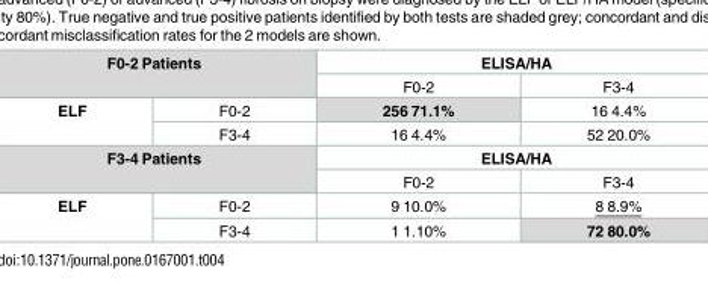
<table><tbody><tr><td rowspan="2" colspan="2">F0-2 Patients</td><td colspan="2">ELISA/HA</td></tr><tr><td>F0-2</td><td>F3-4</td></tr><tr><td rowspan="2">ELF</td><td>F0-2</td><td>256 71.1%</td><td>16 4.4%</td></tr><tr><td>F3-4</td><td>16 4.4%</td><td>52 20.0%</td></tr><tr><td rowspan="2" colspan="2">F3-4 Patients</td><td colspan="2">ELISA/HA</td></tr><tr><td>F0-2</td><td>F3-4</td></tr><tr><td rowspan="2">ELF</td><td>F0-2</td><td>9 10.0%</td><td>8 8.9%</td></tr><tr><td>F3-4</td><td>1 1.10%</td><td>72 80.0%</td></tr></tbody></table>